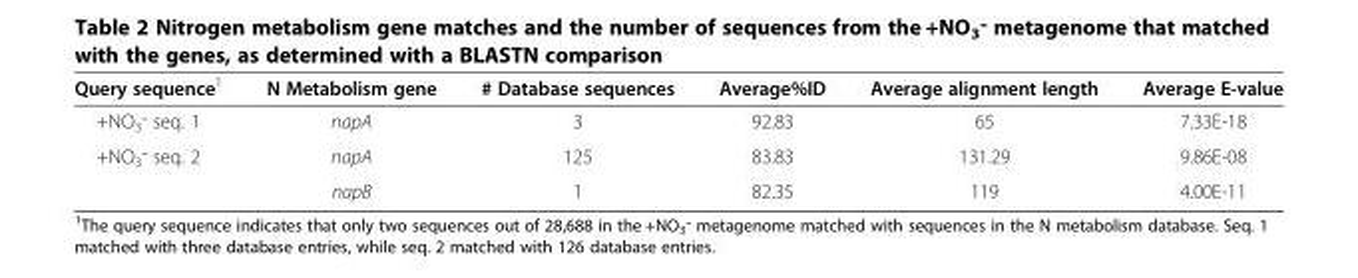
<table><thead><tr><td>Query sequence<sup>1</sup></td><td>N Metabolism gene</td><td># Database sequences</td><td>Average%ID</td><td>Average alignment length</td><td>Average E-value</td></tr></thead><tbody><tr><td>+NO<sub>3</sub>- seq. 1</td><td>napA</td><td>3</td><td>92.83</td><td>65</td><td>7.33E-18</td></tr><tr><td rowspan="2">+NO<sub>3</sub>- seq. 2</td><td>napA</td><td>125</td><td>83.83</td><td>131.29</td><td>9.86E-08</td></tr><tr><td>napB</td><td>1</td><td>82.35</td><td>119</td><td>4.00E-11</td></tr></tbody></table>